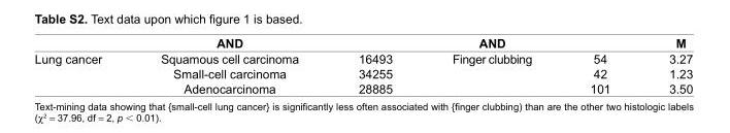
<table><thead><tr><td></td><td>AnD</td><td></td><td>AnD</td><td></td><td>M</td></tr></thead><tbody><tr><td rowspan="3">Lung cancer</td><td>squamous cell carcinoma</td><td>16493</td><td>Finger clubbing</td><td>54</td><td>3.27</td></tr><tr><td>small-cell carcinoma</td><td>34255</td><td></td><td>42</td><td>1.23</td></tr><tr><td>Adenocarcinoma</td><td>28885</td><td></td><td>101</td><td>3.50</td></tr></tbody></table>